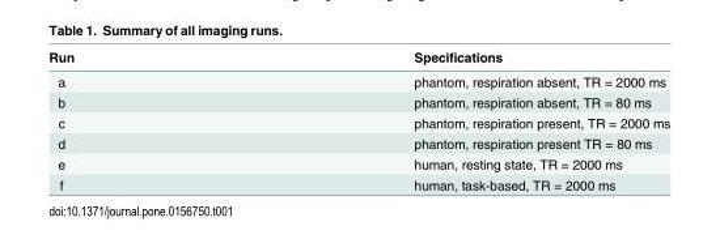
<table><thead><tr><td>Run</td><td>Specifications</td></tr></thead><tbody><tr><td>a</td><td>phantom, respiration absent, TR = 2000 ms</td></tr><tr><td>b</td><td>phantom, respiration absent, TR = 80 ms</td></tr><tr><td>c</td><td>phantom, respiration present, TR = 2000 ms</td></tr><tr><td>d</td><td>phantom, respiration present TR = 80 ms</td></tr><tr><td>e</td><td>human, resting state, TR = 2000 ms</td></tr><tr><td>f</td><td>human, task-based, TR = 2000 ms</td></tr></tbody></table>